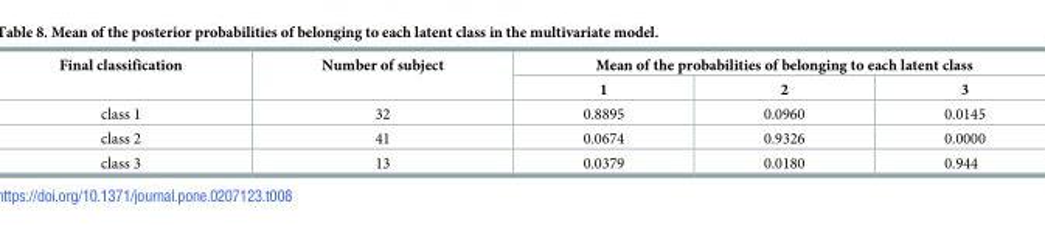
<table><thead><tr><td rowspan="2">Final classification</td><td rowspan="2">Number of subject</td><td colspan="3">Mean of the probabilities of belonging to each latent class</td></tr><tr><td>1</td><td>2</td><td>3</td></tr></thead><tbody><tr><td>class 1</td><td>32</td><td>0.8895</td><td>0.0960</td><td>0.0145</td></tr><tr><td>class 2</td><td>41</td><td>0.0674</td><td>0.9326</td><td>0.0000</td></tr><tr><td>class 3</td><td>13</td><td>0.0379</td><td>0.0180</td><td>0.944</td></tr></tbody></table>